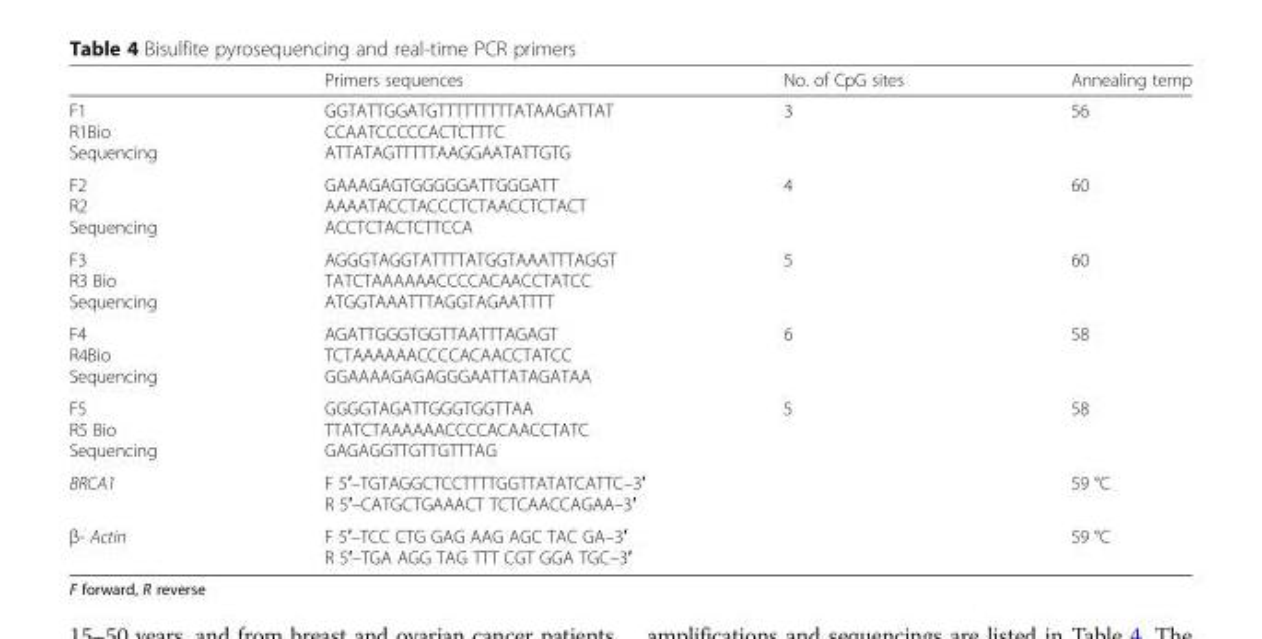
<table><thead><tr><td></td><td>Primers sequences</td><td>No. of CpG sites</td><td>Annealing temp</td></tr></thead><tbody><tr><td>F1 R1Bio Sequencing</td><td>GGTATTGGATGTTTTTTTTTATAAGATTAT CCAATCCCCCACTCTTTC ATTATAGTTTTTAAGGAATATTGTG</td><td>3</td><td>56</td></tr><tr><td>F2 R2 Sequencing</td><td>GAAAGAGTGGGGGATTGGGATT AAAATACCTACCCTCTAACCTCTACT ACCTCTACTCTTCCA</td><td>4</td><td>60</td></tr><tr><td>F3 R3 Bio Sequencing</td><td>AGGGTAGGTATTTTATGGTAAATTTAGGT TATCTAAAAAACCCCACAACCTATCC ATGGTAAATTTAGGTAGAATTTT</td><td>5</td><td>60</td></tr><tr><td>F4 R4Bio Sequencing</td><td>AGATTGGGTGGTTAATTTAGAGT TCTAAAAAACCCCACAACCTATCC GGAAAAGAGAGGGAATTATAGATAA</td><td>6</td><td>58</td></tr><tr><td>F5 R5 Bio Sequencing</td><td>GGGGTAGATTGGGTGGTTAA TTATCTAAAAAACCCCACAACCTATC GAGAGGTTGTTGTTTAG</td><td>5</td><td>58</td></tr><tr><td>BRCA1</td><td colspan="2">F 5′–TGTAGGCTCCTTTTGGTTATATCATTC–3′ R 5′–CATGCTGAAACT TCTCAACCAGAA–3′</td><td>59 °C</td></tr><tr><td>β- Actin</td><td colspan="2">F 5′–TCC CTG GAG AAG AGC TAC GA–3′ R 5′–TGA AGG TAG TTT CGT GGA TGC–3′</td><td>59 °C</td></tr></tbody></table>